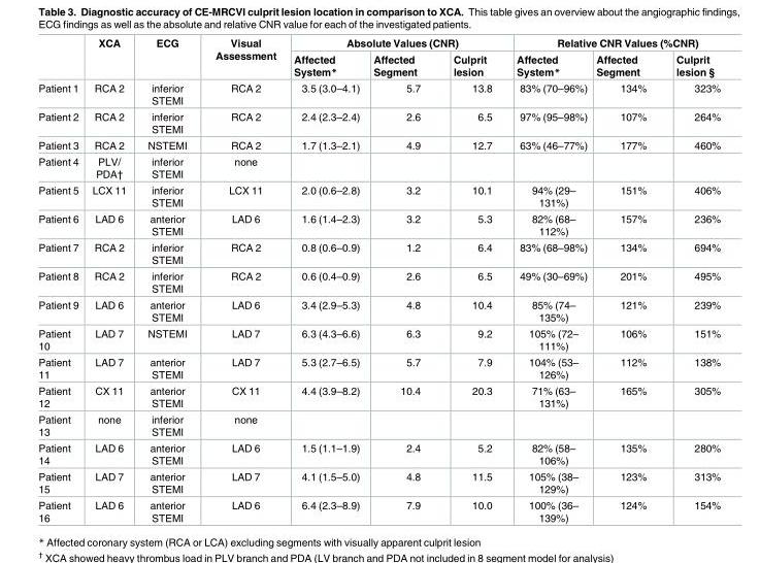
<table><thead><tr><td rowspan="2"></td><td rowspan="2">XCA</td><td rowspan="2">ECG</td><td rowspan="2">Visual Assessment</td><td colspan="3">Absolute Values (CNR)</td><td colspan="3">Relative CNR Values (%CNR)</td></tr><tr><td>Affected System*</td><td>Affected Segment</td><td>Culprit lesion</td><td>Affected System*</td><td>Affected Segment</td><td>Culprit lesion §</td></tr></thead><tbody><tr><td>Patient 1</td><td>RCA 2</td><td>inferior STEMI</td><td>RCA 2</td><td>3.5 (3.0–4.1)</td><td>5.7</td><td>13.8</td><td>83% (70–96%)</td><td>134%</td><td>323%</td></tr><tr><td>Patient 2</td><td>RCA 2</td><td>inferior STEMI</td><td>RCA 2</td><td>2.4 (2.3–2.4)</td><td>2.6</td><td>6.5</td><td>97% (95–98%)</td><td>107%</td><td>264%</td></tr><tr><td>Patient 3</td><td>RCA 2</td><td>NSTEMI</td><td>RCA 2</td><td>1.7 (1.3–2.1)</td><td>4.9</td><td>12.7</td><td>63% (46–77%)</td><td>177%</td><td>460%</td></tr><tr><td>Patient 4</td><td>PLV/ PDA†</td><td>inferior STEMI</td><td>none</td><td></td><td></td><td></td><td></td><td></td><td></td></tr><tr><td>Patient 5</td><td>LCX 11</td><td>inferior STEMI</td><td>LCX 11</td><td>2.0 (0.6–2.8)</td><td>3.2</td><td>10.1</td><td>94% (29– 131%)</td><td>151%</td><td>406%</td></tr><tr><td>Patient 6</td><td>LAD 6</td><td>anterior STEMI</td><td>LAD 6</td><td>1.6 (1.4–2.3)</td><td>3.2</td><td>5.3</td><td>82% (68– 112%)</td><td>157%</td><td>236%</td></tr><tr><td>Patient 7</td><td>RCA 2</td><td>inferior STEMI</td><td>RCA 2</td><td>0.8 (0.6–0.9)</td><td>1.2</td><td>6.4</td><td>83% (68–98%)</td><td>134%</td><td>694%</td></tr><tr><td>Patient 8</td><td>RCA 2</td><td>inferior STEMI</td><td>RCA 2</td><td>0.6 (0.4–0.9)</td><td>2.6</td><td>6.5</td><td>49% (30–69%)</td><td>201%</td><td>495%</td></tr><tr><td>Patient 9</td><td>LAD 6</td><td>anterior STEMI</td><td>LAD 6</td><td>3.4 (2.9–5.3)</td><td>4.8</td><td>10.4</td><td>85% (74– 135%)</td><td>121%</td><td>239%</td></tr><tr><td>Patient 10</td><td>LAD 7</td><td>NSTEMI</td><td>LAD 7</td><td>6.3 (4.3–6.6)</td><td>6.3</td><td>9.2</td><td>105% (72– 111%)</td><td>106%</td><td>151%</td></tr><tr><td>Patient 11</td><td>LAD 7</td><td>anterior STEMI</td><td>LAD 7</td><td>5.3 (2.7–6.5)</td><td>5.7</td><td>7.9</td><td>104% (53– 126%)</td><td>112%</td><td>138%</td></tr><tr><td>Patient 12</td><td>CX 11</td><td>anterior STEMI</td><td>CX 11</td><td>4.4 (3.9–8.2)</td><td>10.4</td><td>20.3</td><td>71% (63– 131%)</td><td>165%</td><td>305%</td></tr><tr><td>Patient 13</td><td>none</td><td>inferior STEMI</td><td>none</td><td></td><td></td><td></td><td></td><td></td><td></td></tr><tr><td>Patient 14</td><td>LAD 6</td><td>anterior STEMI</td><td>LAD 6</td><td>1.5 (1.1–1.9)</td><td>2.4</td><td>5.2</td><td>82% (58– 106%)</td><td>135%</td><td>280%</td></tr><tr><td>Patient 15</td><td>LAD 7</td><td>anterior STEMI</td><td>LAD 7</td><td>4.1 (1.5–5.0)</td><td>4.8</td><td>11.5</td><td>105% (38– 129%)</td><td>123%</td><td>313%</td></tr><tr><td>Patient 16</td><td>LAD 6</td><td>anterior STEMI</td><td>LAD 6</td><td>6.4 (2.3–8.9)</td><td>7.9</td><td>10.0</td><td>100% (36– 139%)</td><td>124%</td><td>154%</td></tr></tbody></table>